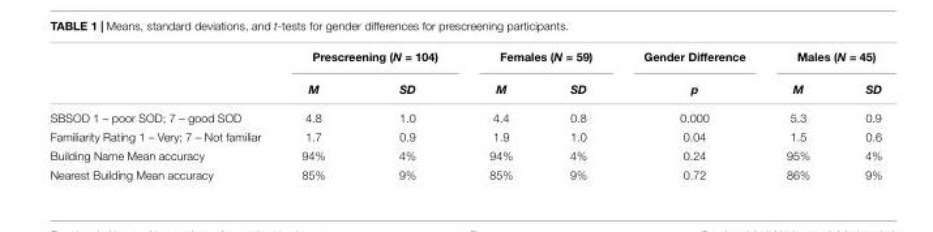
<table><thead><tr><td rowspan="2"></td><td colspan="2">Prescreening (N = 104)</td><td colspan="2">Females (N = 59)</td><td rowspan="2">Gender Difference p</td><td colspan="2">Males (N = 45)</td></tr><tr><td>M</td><td>SD</td><td>M</td><td>SD</td><td>M</td><td>SD</td></tr></thead><tbody><tr><td>SBSOD 1 – poor SOD; 7 – good SOD</td><td>4.8</td><td>1.0</td><td>4.4</td><td>0.8</td><td>0.000</td><td>5.3</td><td>0.9</td></tr><tr><td>Familiarity Rating 1 – Very; 7 – Not familiar</td><td>1.7</td><td>0.9</td><td>1.9</td><td>1.0</td><td>0.04</td><td>1.5</td><td>0.6</td></tr><tr><td>Building Name Mean accuracy</td><td>94%</td><td>4%</td><td>94%</td><td>4%</td><td>0.24</td><td>95%</td><td>4%</td></tr><tr><td>Nearest Building Mean accuracy</td><td>85%</td><td>9%</td><td>85%</td><td>9%</td><td>0.72</td><td>86%</td><td>9%</td></tr></tbody></table>